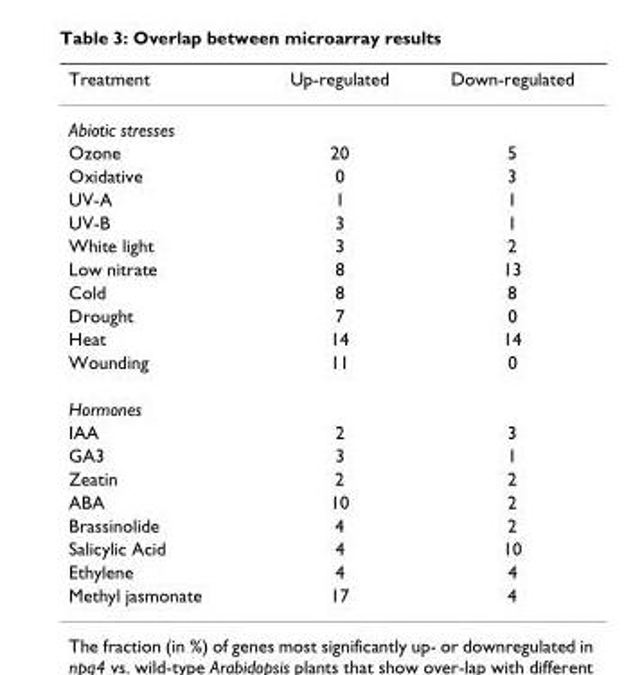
<table><thead><tr><td>Treatment</td><td>Up-regulated</td><td>Down-regulated</td></tr></thead><tbody><tr><td colspan="3">Abiotic stresses</td></tr><tr><td>Ozone</td><td>20</td><td>5</td></tr><tr><td>Oxidative</td><td>0</td><td>3</td></tr><tr><td>UV-A</td><td>1</td><td>1</td></tr><tr><td>UV-B</td><td>3</td><td>1</td></tr><tr><td>White light</td><td>3</td><td>2</td></tr><tr><td>Low nitrate</td><td>8</td><td>13</td></tr><tr><td>Cold</td><td>8</td><td>8</td></tr><tr><td>Drought</td><td>7</td><td>0</td></tr><tr><td>Heat</td><td>14</td><td>14</td></tr><tr><td>Wounding</td><td>11</td><td>0</td></tr><tr><td colspan="3">Hormones</td></tr><tr><td>IAA</td><td>2</td><td>3</td></tr><tr><td>GA3</td><td>3</td><td>1</td></tr><tr><td>Zeatin</td><td>2</td><td>2</td></tr><tr><td>ABA</td><td>10</td><td>2</td></tr><tr><td>Brassinolide</td><td>4</td><td>2</td></tr><tr><td>Salicylic Acid</td><td>4</td><td>10</td></tr><tr><td>Ethylene</td><td>4</td><td>4</td></tr><tr><td>Methyl jasmonate</td><td>17</td><td>4</td></tr></tbody></table>